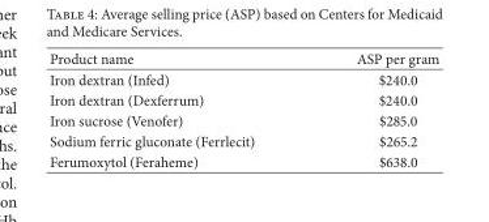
<table><thead><tr><td>Product name</td><td>ASP per gram</td></tr></thead><tbody><tr><td>Iron dextran (Infed)</td><td>$240.0</td></tr><tr><td>Iron dextran (Dexferrum)</td><td>$240.0</td></tr><tr><td>Iron sucrose (Venofer)</td><td>$285.0</td></tr><tr><td>Sodium ferric gluconate (Ferrlecit)</td><td>$265.2</td></tr><tr><td>Ferumoxytol (Feraheme)</td><td>$638.0</td></tr></tbody></table>